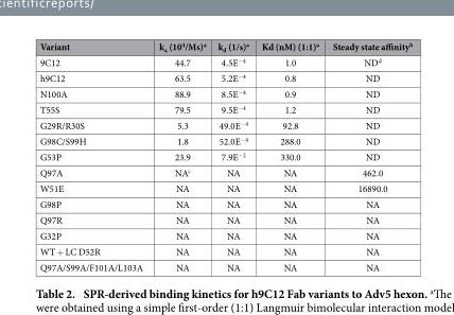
<table><thead><tr><td>Variant</td><td>k<sub>a</sub> (10<sup>4</sup>/Ms)<sup>a</sup></td><td>k<sub>d</sub> (1/s)<sup>a</sup></td><td>Kd (nM) (1:1)<sup>a</sup></td><td>Steady state affinity<sup>b</sup></td></tr></thead><tbody><tr><td>9C12</td><td>44.7</td><td>4.5E<sup>−4</sup></td><td>1.0</td><td>ND<sup>d</sup></td></tr><tr><td>h9C12</td><td>63.5</td><td>5.2E<sup>−4</sup></td><td>0.8</td><td>ND</td></tr><tr><td>N100A</td><td>88.9</td><td>8.5E<sup>−4</sup></td><td>0.9</td><td>ND</td></tr><tr><td>T55S</td><td>79.5</td><td>9.5E<sup>−4</sup></td><td>1.2</td><td>ND</td></tr><tr><td>G29R/R30S</td><td>5.3</td><td>49.0E<sup>−4</sup></td><td>92.8</td><td>ND</td></tr><tr><td>G98C/S99H</td><td>1.8</td><td>52.0E<sup>−4</sup></td><td>288.0</td><td>ND</td></tr><tr><td>G53P</td><td>23.9</td><td>7.9E<sup>−2</sup></td><td>330.0</td><td>ND</td></tr><tr><td>Q97A</td><td>NA<sup>c</sup></td><td>NA</td><td>NA</td><td>462.0</td></tr><tr><td>W51E</td><td>NA</td><td>NA</td><td>NA</td><td>16890.0</td></tr><tr><td>G98P</td><td>NA</td><td>NA</td><td>NA</td><td>NA</td></tr><tr><td>Q97R</td><td>NA</td><td>NA</td><td>NA</td><td>NA</td></tr><tr><td>G32P</td><td>NA</td><td>NA</td><td>NA</td><td>NA</td></tr><tr><td>WT + LC D52R</td><td>NA</td><td>NA</td><td>NA</td><td>NA</td></tr><tr><td>Q97A/S99A/F101A/L103A</td><td>NA</td><td>NA</td><td>NA</td><td>NA</td></tr></tbody></table>